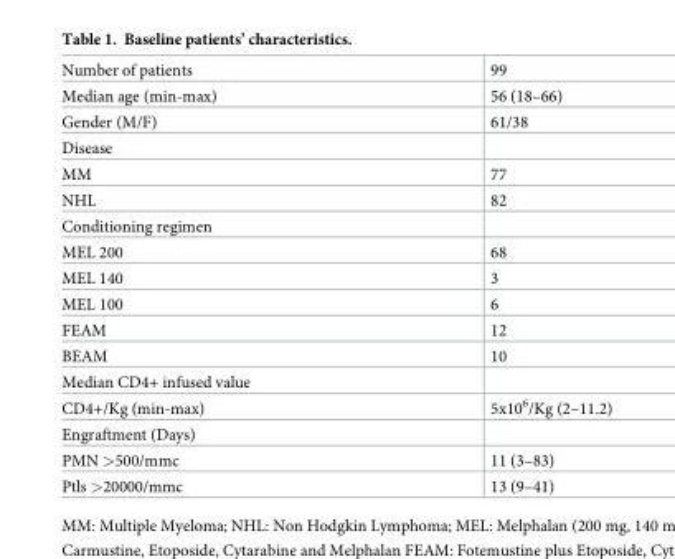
<table><tbody><tr><td>Number of patients</td><td>99</td></tr><tr><td>Median age (min-max)</td><td>56 (18–66)</td></tr><tr><td>Gender (M/F)</td><td>61/38</td></tr><tr><td colspan="2">Disease</td></tr><tr><td>MM</td><td>77</td></tr><tr><td>NHL</td><td>82</td></tr><tr><td colspan="2">Conditioning regimen</td></tr><tr><td>MEL 200</td><td>68</td></tr><tr><td>MEL 140</td><td>3</td></tr><tr><td>MEL 100</td><td>6</td></tr><tr><td>FEAM</td><td>12</td></tr><tr><td>BEAM</td><td>10</td></tr><tr><td colspan="2">Median CD4+ infused value</td></tr><tr><td>CD4+/Kg (min-max)</td><td>5x10<sup>6</sup>/Kg (2–11.2)</td></tr><tr><td colspan="2">Engraftment (Days)</td></tr><tr><td>PMN &gt;500/mmc</td><td>11 (3–83)</td></tr><tr><td>Ptls &gt;20000/mmc</td><td>13 (9–41)</td></tr></tbody></table>